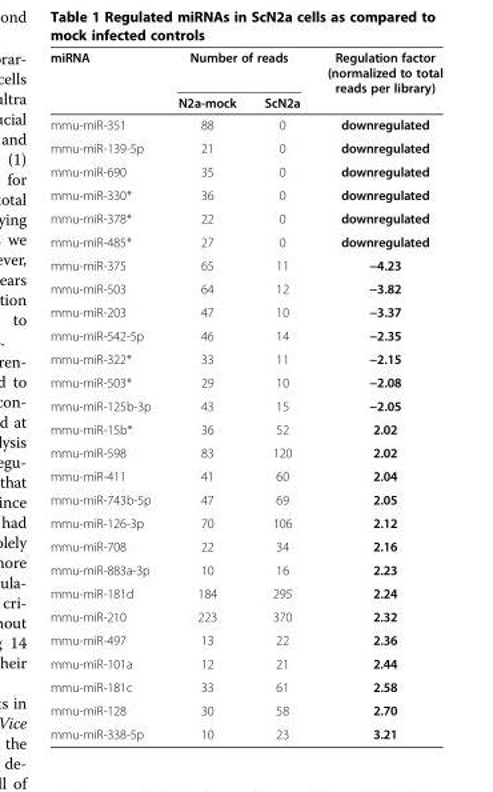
<table><thead><tr><td rowspan="2">miRNA</td><td colspan="2">Number of reads</td><td rowspan="2">Regulation factor (normalized to total reads per library)</td></tr><tr><td>N2a-mock</td><td>ScN2a</td></tr></thead><tbody><tr><td>mmu-miR-351</td><td>88</td><td>0</td><td>downregulated</td></tr><tr><td>mmu-miR-139-5p</td><td>21</td><td>0</td><td>downregulated</td></tr><tr><td>mmu-miR-690</td><td>35</td><td>0</td><td>downregulated</td></tr><tr><td>mmu-miR-330*</td><td>36</td><td>0</td><td>downregulated</td></tr><tr><td>mmu-miR-378*</td><td>22</td><td>0</td><td>downregulated</td></tr><tr><td>mmu-miR-485*</td><td>27</td><td>0</td><td>downregulated</td></tr><tr><td>mmu-miR-375</td><td>65</td><td>11</td><td>−4.23</td></tr><tr><td>mmu-miR-503</td><td>64</td><td>12</td><td>−3.82</td></tr><tr><td>mmu-miR-203</td><td>47</td><td>10</td><td>−3.37</td></tr><tr><td>mmu-miR-542-5p</td><td>46</td><td>14</td><td>−2.35</td></tr><tr><td>mmu-miR-322*</td><td>33</td><td>11</td><td>−2.15</td></tr><tr><td>mmu-miR-503*</td><td>29</td><td>10</td><td>−2.08</td></tr><tr><td>mmu-miR-125b-3p</td><td>43</td><td>15</td><td>−2.05</td></tr><tr><td>mmu-miR-15b*</td><td>36</td><td>52</td><td>2.02</td></tr><tr><td>mmu-miR-598</td><td>83</td><td>120</td><td>2.02</td></tr><tr><td>mmu-miR-411</td><td>41</td><td>60</td><td>2.04</td></tr><tr><td>mmu-miR-743b-5p</td><td>47</td><td>69</td><td>2.05</td></tr><tr><td>mmu-miR-126-3p</td><td>70</td><td>106</td><td>2.12</td></tr><tr><td>mmu-miR-708</td><td>22</td><td>34</td><td>2.16</td></tr><tr><td>mmu-miR-883a-3p</td><td>10</td><td>16</td><td>2.23</td></tr><tr><td>mmu-miR-181d</td><td>184</td><td>295</td><td>2.24</td></tr><tr><td>mmu-miR-210</td><td>223</td><td>370</td><td>2.32</td></tr><tr><td>mmu-miR-497</td><td>13</td><td>22</td><td>2.36</td></tr><tr><td>mmu-miR-101a</td><td>12</td><td>21</td><td>2.44</td></tr><tr><td>mmu-miR-181c</td><td>33</td><td>61</td><td>2.58</td></tr><tr><td>mmu-miR-128</td><td>30</td><td>58</td><td>2.70</td></tr><tr><td>mmu-miR-338-5p</td><td>10</td><td>23</td><td>3.21</td></tr></tbody></table>